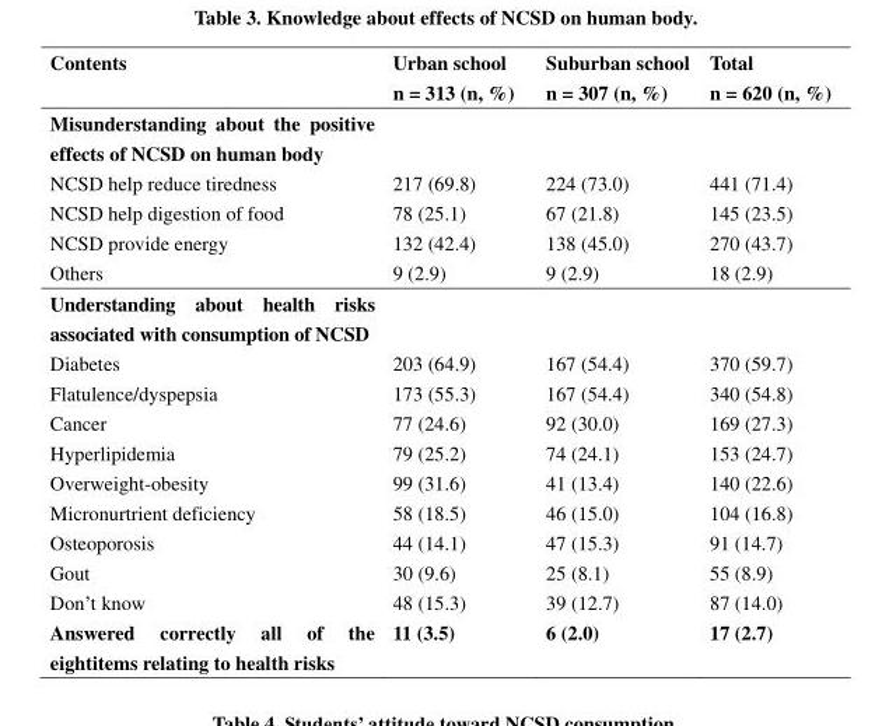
<table><thead><tr><td>Contents</td><td>Urban school n = 313 (n, %)</td><td>Suburban school n = 307 (n, %)</td><td>Total n = 620 (n, %)</td></tr></thead><tbody><tr><td colspan="4">Misunderstanding about the positive effects of NCSD on human body</td></tr><tr><td>NCSD help reduce tiredness</td><td>217 (69.8)</td><td>224 (73.0)</td><td>441 (71.4)</td></tr><tr><td>NCSD help digestion of food</td><td>78 (25.1)</td><td>67 (21.8)</td><td>145 (23.5)</td></tr><tr><td>NCSD provide energy</td><td>132 (42.4)</td><td>138 (45.0)</td><td>270 (43.7)</td></tr><tr><td>Others</td><td>9 (2.9)</td><td>9 (2.9)</td><td>18 (2.9)</td></tr><tr><td colspan="4">Understanding about health risks associated with consumption of NCSD</td></tr><tr><td>Diabetes</td><td>203 (64.9)</td><td>167 (54.4)</td><td>370 (59.7)</td></tr><tr><td>Flatulence/dyspepsia</td><td>173 (55.3)</td><td>167 (54.4)</td><td>340 (54.8)</td></tr><tr><td>Cancer</td><td>77 (24.6)</td><td>92 (30.0)</td><td>169 (27.3)</td></tr><tr><td>Hyperlipidemia</td><td>79 (25.2)</td><td>74 (24.1)</td><td>153 (24.7)</td></tr><tr><td>Overweight-obesity</td><td>99 (31.6)</td><td>41 (13.4)</td><td>140 (22.6)</td></tr><tr><td>Micronurtrient deficiency</td><td>58 (18.5)</td><td>46 (15.0)</td><td>104 (16.8)</td></tr><tr><td>Osteoporosis</td><td>44 (14.1)</td><td>47 (15.3)</td><td>91 (14.7)</td></tr><tr><td>Gout</td><td>30 (9.6)</td><td>25 (8.1)</td><td>55 (8.9)</td></tr><tr><td>Don’t know</td><td>48 (15.3)</td><td>39 (12.7)</td><td>87 (14.0)</td></tr><tr><td>Answered correctly all of the eightitems relating to health risks</td><td>11 (3.5)</td><td>6 (2.0)</td><td>17 (2.7)</td></tr></tbody></table>